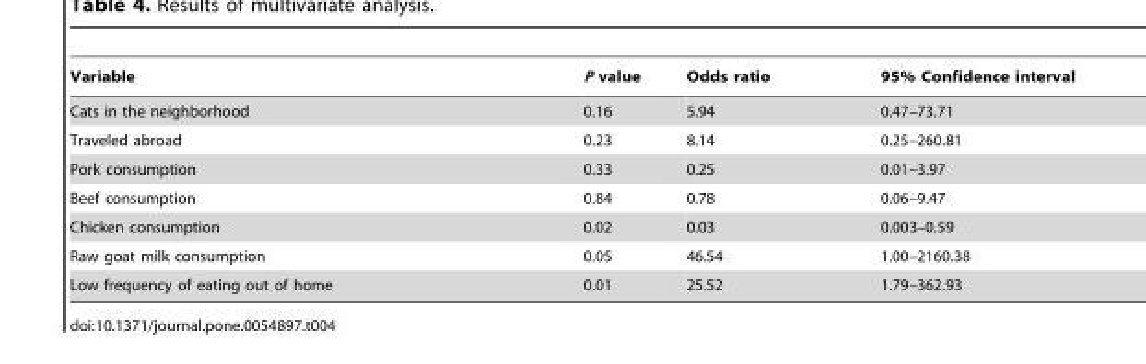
<table><thead><tr><td>Variable</td><td>P value</td><td>Odds ratio</td><td>95% Confidence interval</td></tr></thead><tbody><tr><td>Cats in the neighborhood</td><td>0.16</td><td>5.94</td><td>0.47–73.71</td></tr><tr><td>Traveled abroad</td><td>0.23</td><td>8.14</td><td>0.25–260.81</td></tr><tr><td>Pork consumption</td><td>0.33</td><td>0.25</td><td>0.01–3.97</td></tr><tr><td>Beef consumption</td><td>0.84</td><td>0.78</td><td>0.06–9.47</td></tr><tr><td>Chicken consumption</td><td>0.02</td><td>0.03</td><td>0.003–0.59</td></tr><tr><td>Raw goat milk consumption</td><td>0.05</td><td>46.54</td><td>1.00–2160.38</td></tr><tr><td>Low frequency of eating out of home</td><td>0.01</td><td>25.52</td><td>1.79–362.93</td></tr></tbody></table>